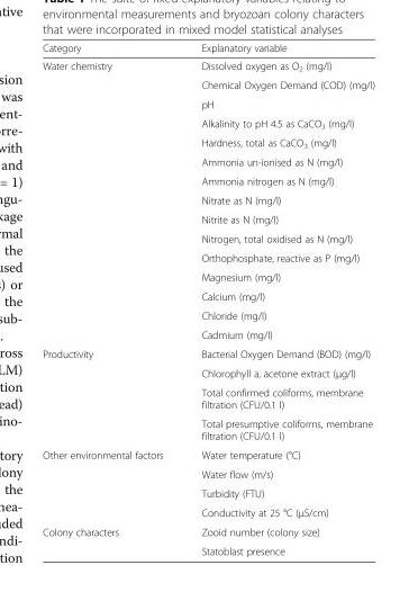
<table><thead><tr><td>Category</td><td>Explanatory variable</td></tr></thead><tbody><tr><td rowspan="15">Water chemistry</td><td>Dissolved oxygen as O<sub>2</sub> (mg/l)</td></tr><tr><td>Chemical Oxygen Demand (COD) (mg/l)</td></tr><tr><td>pH</td></tr><tr><td>Alkalinity to pH 4.5 as CaCO<sub>3</sub> (mg/l)</td></tr><tr><td>Hardness, total as CaCO<sub>3</sub> (mg/l)</td></tr><tr><td>Ammonia un-ionised as N (mg/l)</td></tr><tr><td>Ammonia nitrogen as N (mg/l)</td></tr><tr><td>Nitrate as N (mg/l)</td></tr><tr><td>Nitrite as N (mg/l)</td></tr><tr><td>Nitrogen, total oxidised as N (mg/l)</td></tr><tr><td>Orthophosphate, reactive as P (mg/l)</td></tr><tr><td>Magnesium (mg/l)</td></tr><tr><td>Calcium (mg/l)</td></tr><tr><td>Chloride (mg/l)</td></tr><tr><td>Cadmium (mg/l)</td></tr><tr><td rowspan="4">Productivity</td><td>Bacterial Oxygen Demand (BOD) (mg/l)</td></tr><tr><td>Chlorophyll a, acetone extract (μg/l)</td></tr><tr><td>Total confirmed coliforms, membrane filtration (CFU/0.1 l)</td></tr><tr><td>Total presumptive coliforms, membrane filtration (CFU/0.1 l)</td></tr><tr><td rowspan="4">Other environmental factors</td><td>Water temperature (°C)</td></tr><tr><td>Water flow (m/s)</td></tr><tr><td>Turbidity (FTU)</td></tr><tr><td>Conductivity at 25 °C (μS/cm)</td></tr><tr><td rowspan="2">Colony characters</td><td>Zooid number (colony size)</td></tr><tr><td>Statoblast presence</td></tr></tbody></table>